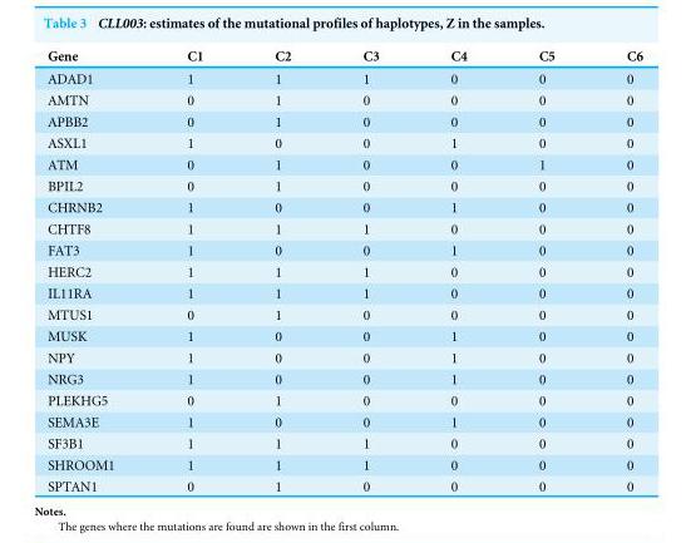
<table><thead><tr><td>Gene</td><td>C1</td><td>C2</td><td>C3</td><td>C4</td><td>C5</td><td>C6</td></tr></thead><tbody><tr><td>ADAD1</td><td>1</td><td>1</td><td>1</td><td>0</td><td>0</td><td>0</td></tr><tr><td>AMTN</td><td>0</td><td>1</td><td>0</td><td>0</td><td>0</td><td>0</td></tr><tr><td>APBB2</td><td>0</td><td>1</td><td>0</td><td>0</td><td>0</td><td>0</td></tr><tr><td>ASXL1</td><td>1</td><td>0</td><td>0</td><td>1</td><td>0</td><td>0</td></tr><tr><td>ATM</td><td>0</td><td>1</td><td>0</td><td>0</td><td>1</td><td>0</td></tr><tr><td>BPIL2</td><td>0</td><td>1</td><td>0</td><td>0</td><td>0</td><td>0</td></tr><tr><td>CHRNB2</td><td>1</td><td>0</td><td>0</td><td>1</td><td>0</td><td>0</td></tr><tr><td>CHTF8</td><td>1</td><td>1</td><td>1</td><td>0</td><td>0</td><td>0</td></tr><tr><td>FAT3</td><td>1</td><td>0</td><td>0</td><td>1</td><td>0</td><td>0</td></tr><tr><td>HERC2</td><td>1</td><td>1</td><td>1</td><td>0</td><td>0</td><td>0</td></tr><tr><td>IL11RA</td><td>1</td><td>1</td><td>1</td><td>0</td><td>0</td><td>0</td></tr><tr><td>MTUS1</td><td>0</td><td>1</td><td>0</td><td>0</td><td>0</td><td>0</td></tr><tr><td>MUSK</td><td>1</td><td>0</td><td>0</td><td>1</td><td>0</td><td>0</td></tr><tr><td>NPY</td><td>1</td><td>0</td><td>0</td><td>1</td><td>0</td><td>0</td></tr><tr><td>NRG3</td><td>1</td><td>0</td><td>0</td><td>1</td><td>0</td><td>0</td></tr><tr><td>PLEKHG5</td><td>0</td><td>1</td><td>0</td><td>0</td><td>0</td><td>0</td></tr><tr><td>SEMA3E</td><td>1</td><td>0</td><td>0</td><td>1</td><td>0</td><td>0</td></tr><tr><td>SF3B1</td><td>1</td><td>1</td><td>1</td><td>0</td><td>0</td><td>0</td></tr><tr><td>SHROOM1</td><td>1</td><td>1</td><td>1</td><td>0</td><td>0</td><td>0</td></tr><tr><td>SPTAN1</td><td>0</td><td>1</td><td>0</td><td>0</td><td>0</td><td>0</td></tr></tbody></table>